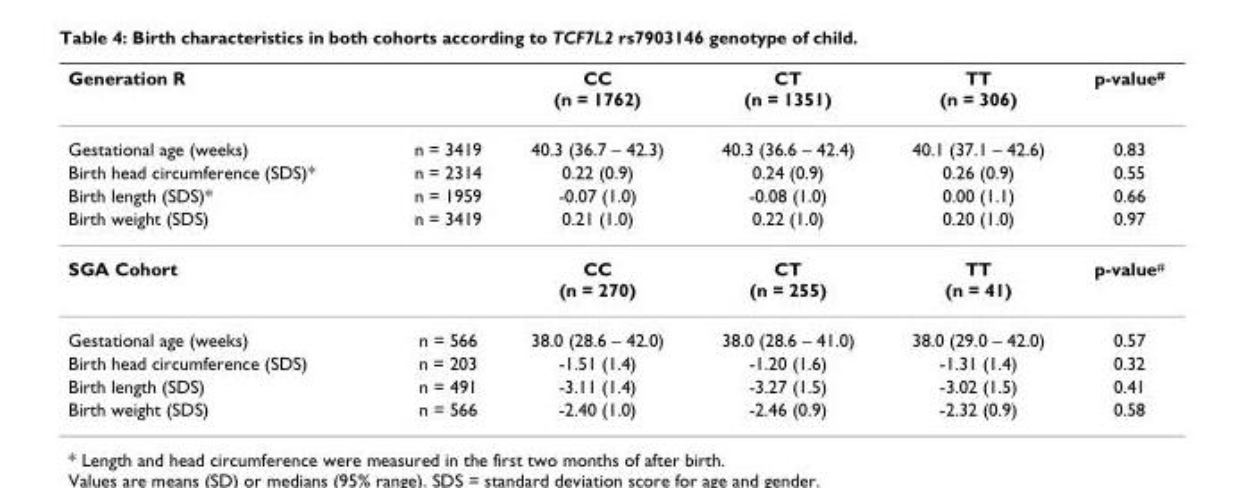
<table><thead><tr><td>Generation R</td><td></td><td>CC (n = 1762)</td><td>CT (n = 1351)</td><td>TT (n = 306)</td><td>p-value<sup>#</sup></td></tr></thead><tbody><tr><td>Gestational age (weeks)</td><td>n = 3419</td><td>40.3 (36.7 – 42.3)</td><td>40.3 (36.6 – 42.4)</td><td>40.1 (37.1 – 42.6)</td><td>0.83</td></tr><tr><td>Birth head circumference (SDS)*</td><td>n = 2314</td><td>0.22 (0.9)</td><td>0.24 (0.9)</td><td>0.26 (0.9)</td><td>0.55</td></tr><tr><td>Birth length (SDS)*</td><td>n = 1959</td><td>-0.07 (1.0)</td><td>-0.08 (1.0)</td><td>0.00 (1.1)</td><td>0.66</td></tr><tr><td>Birth weight (SDS)</td><td>n = 3419</td><td>0.21 (1.0)</td><td>0.22 (1.0)</td><td>0.20 (1.0)</td><td>0.97</td></tr><tr><td>SGA Cohort</td><td></td><td>CC (n = 270)</td><td>CT (n = 255)</td><td>TT (n = 41)</td><td>p-value<sup>#</sup></td></tr><tr><td>Gestational age (weeks)</td><td>n = 566</td><td>38.0 (28.6 – 42.0)</td><td>38.0 (28.6 – 41.0)</td><td>38.0 (29.0 – 42.0)</td><td>0.57</td></tr><tr><td>Birth head circumference (SDS)</td><td>n = 203</td><td>-1.51 (1.4)</td><td>-1.20 (1.6)</td><td>-1.31 (1.4)</td><td>0.32</td></tr><tr><td>Birth length (SDS)</td><td>n = 491</td><td>-3.11 (1.4)</td><td>-3.27 (1.5)</td><td>-3.02 (1.5)</td><td>0.41</td></tr><tr><td>Birth weight (SDS)</td><td>n = 566</td><td>-2.40 (1.0)</td><td>-2.46 (0.9)</td><td>-2.32 (0.9)</td><td>0.58</td></tr></tbody></table>